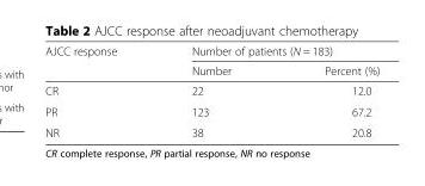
<table><thead><tr><td rowspan="2">AJCC response</td><td colspan="2">Number of patients (N = 183)</td></tr><tr><td>Number</td><td>Percent (%)</td></tr></thead><tbody><tr><td>CR</td><td>22</td><td>12.0</td></tr><tr><td>PR</td><td>123</td><td>67.2</td></tr><tr><td>NR</td><td>38</td><td>20.8</td></tr></tbody></table>